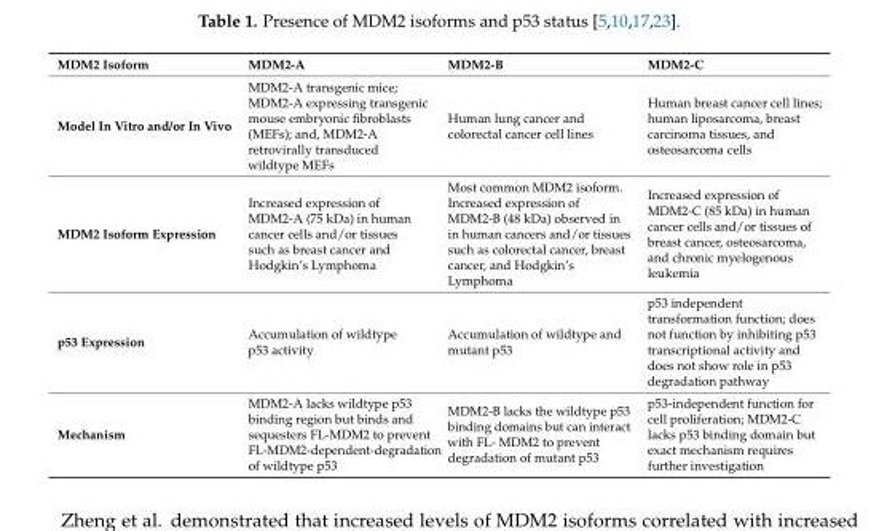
<table><thead><tr><td>MDM2 Isoform</td><td>MDM2-A</td><td>MDM2-B</td><td>MDM2-C</td></tr></thead><tbody><tr><td>Model In Vitro and/or In Vivo</td><td>MDM2-A transgenic mice; MDM2-A expressing transgenic mouse embryonic fibroblasts (MEFs); and, MDM2-A retrovirally transduced wildtype MEFs</td><td>Human lung cancer and colorectal cancer cell lines</td><td>Human breast cancer cell lines; human liposarcoma, breast carcinoma tissues, and osteosarcoma cells</td></tr><tr><td>MDM2 Isoform Expression</td><td>Increased expression of MDM2-A (75 kDa) in human cancer cells and/or tissues such as breast cancer and Hodgkin’s Lymphoma</td><td>Most common MDM2 isoform. Increased expression of MDM2-B (48 kDa) observed in in human cancers and/or tissues such as colorectal cancer, breast cancer, and Hodgkin’s Lymphoma</td><td>Increased expression of MDM2-C (85 kDa) in human cancer cells and/or tissues of breast cancer, osteosarcoma, and chronic myelogenous leukemia</td></tr><tr><td>p53 Expression</td><td>Accumulation of wildtype p53 activity</td><td>Accumulation of wildtype and mutant p53</td><td>p53 independent transformation function; does not function by inhibiting p53 transcriptional activity and does not show role in p53 degradation pathway</td></tr><tr><td>Mechanism</td><td>MDM2-A lacks wildtype p53 binding region but binds and sequesters FL-MDM2 to prevent FL-MDM2-dependent-degradation of wildtype p53</td><td>MDM2-B lacks the wildtype p53 binding domains but can interact with FL- MDM2 to prevent degradation of mutant p53</td><td>p53-independent function for cell proliferation; MDM2-C lacks p53 binding domain but exact mechanism requires further investigation</td></tr></tbody></table>